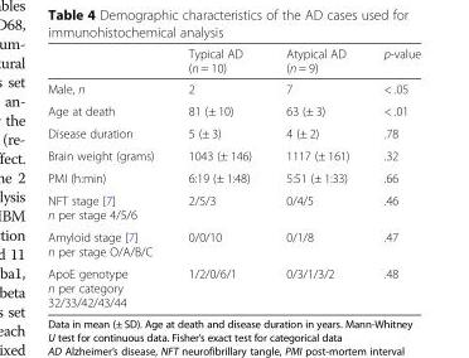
<table><thead><tr><td></td><td>Typical AD (n = 10)</td><td>Atypical AD (n = 9)</td><td>p-value</td></tr></thead><tbody><tr><td>Male, n</td><td>2</td><td>7</td><td>&lt; .05</td></tr><tr><td>Age at death</td><td>81 (± 10)</td><td>63 (± 3)</td><td>&lt; .01</td></tr><tr><td>Disease duration</td><td>5 (± 3)</td><td>4 (± 2)</td><td>.78</td></tr><tr><td>Brain weight (grams)</td><td>1043 (± 146)</td><td>1117 (± 161)</td><td>.32</td></tr><tr><td>PMI (h:min)</td><td>6:19 (± 1:48)</td><td>5:51 (± 1:33)</td><td>.66</td></tr><tr><td>NFT stage [7] n per stage 4/5/6</td><td>2/5/3</td><td>0/4/5</td><td>.46</td></tr><tr><td>Amyloid stage [7] n per stage O/A/B/C</td><td>0/0/10</td><td>0/1/8</td><td>.47</td></tr><tr><td>ApoE genotype n per category 32/33/42/43/44</td><td>1/2/0/6/1</td><td>0/3/1/3/2</td><td>.48</td></tr></tbody></table>